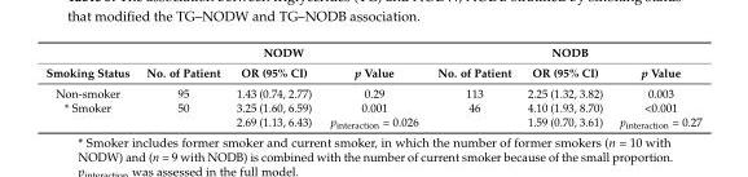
<table><thead><tr><td rowspan="2">Smoking Status</td><td colspan="3">NODW</td><td colspan="3">NODB</td></tr><tr><td>No. of Patient</td><td>OR (95% CI)</td><td>p Value</td><td>No. of Patient</td><td>OR (95% CI)</td><td>p Value</td></tr></thead><tbody><tr><td>Non-smoker</td><td>95</td><td>1.43 (0.74, 2.77)</td><td>0.29</td><td>113</td><td>2.25 (1.32, 3.82)</td><td>0.003</td></tr><tr><td rowspan="2">* Smoker</td><td>50</td><td>3.25 (1.60, 6.59)</td><td>0.001</td><td>46</td><td>4.10 (1.93, 8.70)</td><td>&lt;0.001</td></tr><tr><td></td><td>2.69 (1.13, 6.43)</td><td>p<sub>interaction</sub> = 0.026</td><td></td><td>1.59 (0.70, 3.61)</td><td>p<sub>interaction</sub> = 0.27</td></tr></tbody></table>